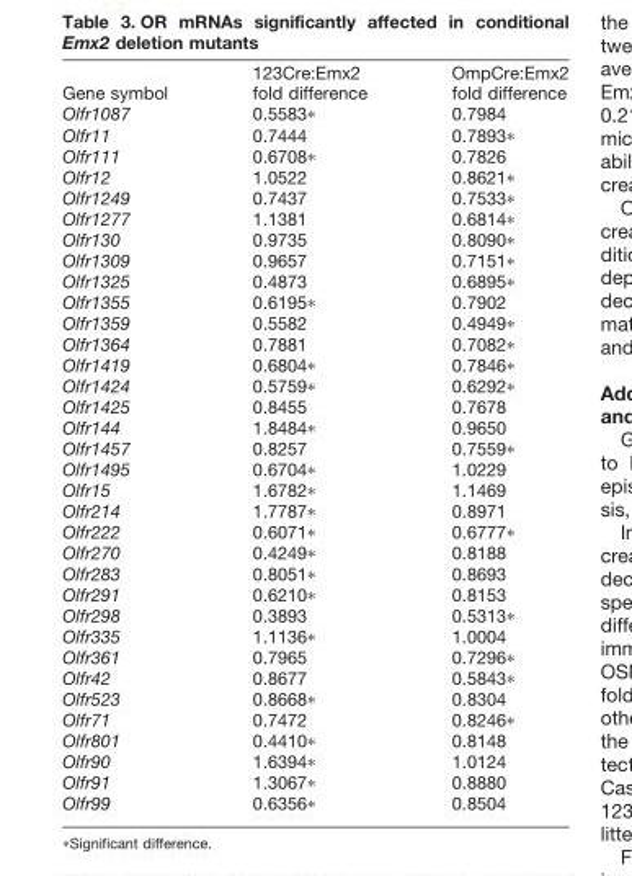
<table><thead><tr><td>Gene symbol</td><td>123Cre:Emx2 fold difference</td><td>OmpCre:Emx2 fold difference</td></tr></thead><tbody><tr><td>Olfr1087</td><td>0.5583*</td><td>0.7984</td></tr><tr><td>Olfr11</td><td>0.7444</td><td>0.7893*</td></tr><tr><td>Olfr111</td><td>0.6708*</td><td>0.7826</td></tr><tr><td>Olfr12</td><td>1.0522</td><td>0.8621*</td></tr><tr><td>Olfr1249</td><td>0.7437</td><td>0.7533*</td></tr><tr><td>Olfr1277</td><td>1.1381</td><td>0.6814*</td></tr><tr><td>Olfr130</td><td>0.9735</td><td>0.8090*</td></tr><tr><td>Olfr1309</td><td>0.9657</td><td>0.7151*</td></tr><tr><td>Olfr1325</td><td>0.4873</td><td>0.6895*</td></tr><tr><td>Olfr1355</td><td>0.6195*</td><td>0.7902</td></tr><tr><td>Olfr1359</td><td>0.5582</td><td>0.4949*</td></tr><tr><td>Olfr1364</td><td>0.7881</td><td>0.7082*</td></tr><tr><td>Olfr1419</td><td>0.6804*</td><td>0.7846*</td></tr><tr><td>Olfr1424</td><td>0.5759*</td><td>0.6292*</td></tr><tr><td>Olfr1425</td><td>0.8455</td><td>0.7678</td></tr><tr><td>Olfr144</td><td>1.8484*</td><td>0.9650</td></tr><tr><td>Olfr1457</td><td>0.8257</td><td>0.7559*</td></tr><tr><td>Olfr1495</td><td>0.6704*</td><td>1.0229</td></tr><tr><td>Olfr15</td><td>1.6782*</td><td>1.1469</td></tr><tr><td>Olfr214</td><td>1.7787*</td><td>0.8971</td></tr><tr><td>Olfr222</td><td>0.6071*</td><td>0.6777*</td></tr><tr><td>Olfr270</td><td>0.4249*</td><td>0.8188</td></tr><tr><td>Olfr283</td><td>0.8051*</td><td>0.8693</td></tr><tr><td>Olfr291</td><td>0.6210*</td><td>0.8153</td></tr><tr><td>Olfr298</td><td>0.3893</td><td>0.5313*</td></tr><tr><td>Olfr335</td><td>1.1136*</td><td>1.0004</td></tr><tr><td>Olfr361</td><td>0.7965</td><td>0.7296*</td></tr><tr><td>Olfr42</td><td>0.8677</td><td>0.5843*</td></tr><tr><td>Olfr523</td><td>0.8668*</td><td>0.8304</td></tr><tr><td>Olfr71</td><td>0.7472</td><td>0.8246*</td></tr><tr><td>Olfr801</td><td>0.4410*</td><td>0.8148</td></tr><tr><td>Olfr90</td><td>1.6394*</td><td>1.0124</td></tr><tr><td>Olfr91</td><td>1.3067*</td><td>0.8880</td></tr><tr><td>Olfr99</td><td>0.6356*</td><td>0.8504</td></tr></tbody></table>